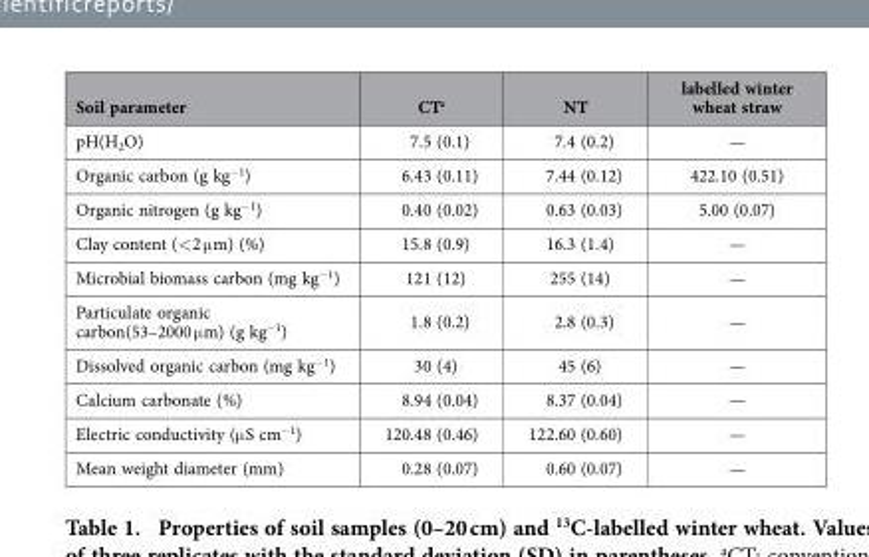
<table><thead><tr><td>Soil parameter</td><td>CT<sup>a</sup></td><td>NT</td><td>labelled winter wheat straw</td></tr></thead><tbody><tr><td>pH(H<sub>2</sub>O)</td><td>7.5 (0.1)</td><td>7.4 (0.2)</td><td>—</td></tr><tr><td>Organic carbon (g kg<sup>−1</sup>)</td><td>6.43 (0.11)</td><td>7.44 (0.12)</td><td>422.10 (0.51)</td></tr><tr><td>Organic nitrogen (g kg<sup>−1</sup>)</td><td>0.40 (0.02)</td><td>0.63 (0.03)</td><td>5.00 (0.07)</td></tr><tr><td>Clay content (&lt; 2 μ m) (%)</td><td>15.8 (0.9)</td><td>16.3 (1.4)</td><td>—</td></tr><tr><td>Microbial biomass carbon (mg kg<sup>−1</sup>)</td><td>121 (12)</td><td>255 (14)</td><td>—</td></tr><tr><td>Particulate organic carbon(53–2000 μ m) (g kg<sup>−1</sup>)</td><td>1.8 (0.2)</td><td>2.8 (0.3)</td><td>—</td></tr><tr><td>Dissolved organic carbon (mg kg<sup>−1</sup>)</td><td>30 (4)</td><td>45 (6)</td><td>—</td></tr><tr><td>Calcium carbonate (%)</td><td>8.94 (0.04)</td><td>8.37 (0.04)</td><td>—</td></tr><tr><td>Electric conductivity (μ S cm<sup>−1</sup>)</td><td>120.48 (0.46)</td><td>122.60 (0.60)</td><td>—</td></tr><tr><td>Mean weight diameter (mm)</td><td>0.28 (0.07)</td><td>0.60 (0.07)</td><td>—</td></tr></tbody></table>